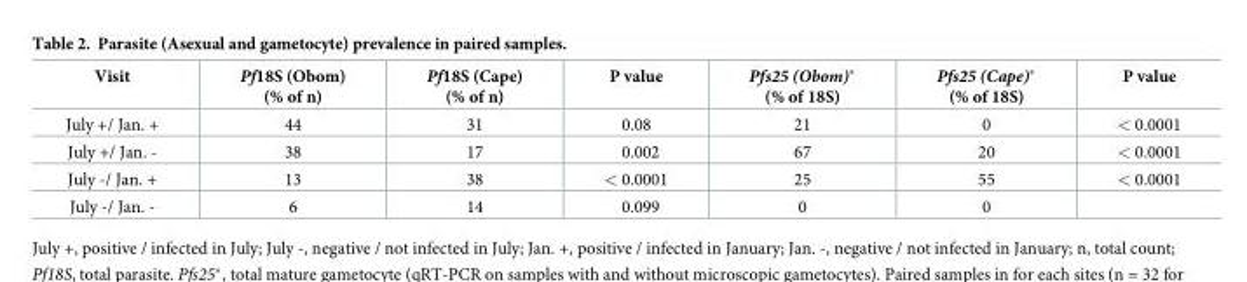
<table><thead><tr><td>Visit</td><td>Pf18S (Obom) (% of n)</td><td>Pf18S (Cape) (% of n)</td><td>P value</td><td>Pfs25 (Obom)* (% of 18S)</td><td>Pfs25 (Cape)* (% of 18S)</td><td>P value</td></tr></thead><tbody><tr><td>July +/ Jan. +</td><td>44</td><td>31</td><td>0.08</td><td>21</td><td>0</td><td>&lt; 0.0001</td></tr><tr><td>July +/ Jan. -</td><td>38</td><td>17</td><td>0.002</td><td>67</td><td>20</td><td>&lt; 0.0001</td></tr><tr><td>July -/ Jan. +</td><td>13</td><td>38</td><td>&lt; 0.0001</td><td>25</td><td>55</td><td>&lt; 0.0001</td></tr><tr><td>July -/ Jan. -</td><td>6</td><td>14</td><td>0.099</td><td>0</td><td>0</td><td></td></tr></tbody></table>